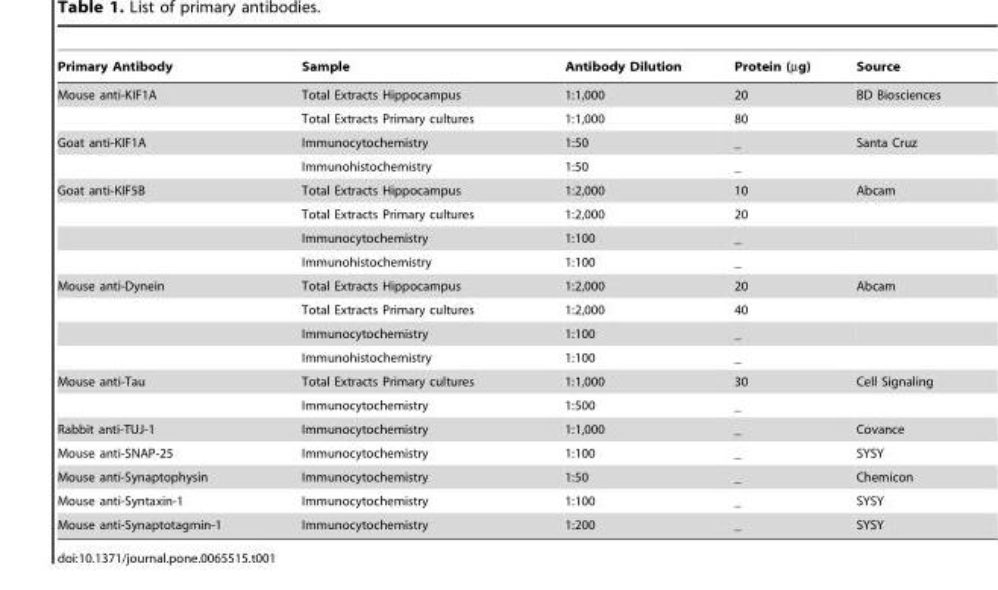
<table><thead><tr><td>Primary Antibody</td><td>Sample</td><td>Antibody Dilution</td><td>Protein (µg)</td><td>Source</td></tr></thead><tbody><tr><td rowspan="2">Mouse anti-KIF1A</td><td>Total Extracts Hippocampus</td><td>1:1,000</td><td>20</td><td>BD Biosciences</td></tr><tr><td>Total Extracts Primary cultures</td><td>1:1,000</td><td>80</td><td></td></tr><tr><td rowspan="2">Goat anti-KIF1A</td><td>Immunocytochemistry</td><td>1:50</td><td>_</td><td>Santa Cruz</td></tr><tr><td>Immunohistochemistry</td><td>1:50</td><td>_</td><td></td></tr><tr><td rowspan="4">Goat anti-KIF5B</td><td>Total Extracts Hippocampus</td><td>1:2,000</td><td>10</td><td>Abcam</td></tr><tr><td>Total Extracts Primary cultures</td><td>1:2,000</td><td>20</td><td></td></tr><tr><td>Immunocytochemistry</td><td>1:100</td><td>_</td><td></td></tr><tr><td>Immunohistochemistry</td><td>1:100</td><td>_</td><td></td></tr><tr><td rowspan="4">Mouse anti-Dynein</td><td>Total Extracts Hippocampus</td><td>1:2,000</td><td>20</td><td>Abcam</td></tr><tr><td>Total Extracts Primary cultures</td><td>1:2,000</td><td>40</td><td></td></tr><tr><td>Immunocytochemistry</td><td>1:100</td><td>_</td><td></td></tr><tr><td>Immunohistochemistry</td><td>1:100</td><td>_</td><td></td></tr><tr><td rowspan="2">Mouse anti-Tau</td><td>Total Extracts Primary cultures</td><td>1:1,000</td><td>30</td><td>Cell Signaling</td></tr><tr><td>Immunocytochemistry</td><td>1:500</td><td>_</td><td></td></tr><tr><td>Rabbit anti-TUJ-1</td><td>Immunocytochemistry</td><td>1:1,000</td><td>_</td><td>Covance</td></tr><tr><td>Mouse anti-SNAP-25</td><td>Immunocytochemistry</td><td>1:100</td><td>_</td><td>SYSY</td></tr><tr><td>Mouse anti-Synaptophysin</td><td>Immunocytochemistry</td><td>1:50</td><td>_</td><td>Chemicon</td></tr><tr><td>Mouse anti-Syntaxin-1</td><td>Immunocytochemistry</td><td>1:100</td><td>_</td><td>SYSY</td></tr><tr><td>Mouse anti-Synaptotagmin-1</td><td>Immunocytochemistry</td><td>1:200</td><td>_</td><td>SYSY</td></tr></tbody></table>